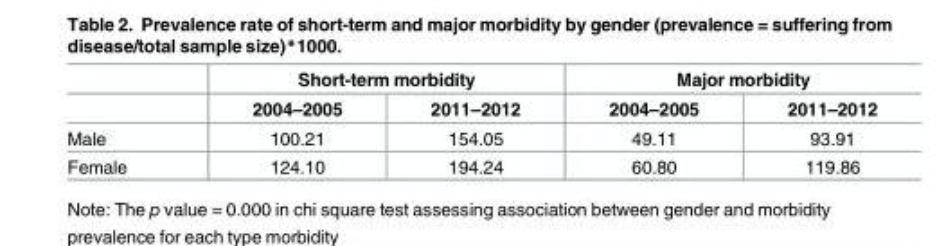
<table><thead><tr><td rowspan="2"></td><td colspan="2">Short-term morbidity</td><td colspan="2">Major morbidity</td></tr><tr><td>2004–2005</td><td>2011–2012</td><td>2004–2005</td><td>2011–2012</td></tr></thead><tbody><tr><td>Male</td><td>100.21</td><td>154.05</td><td>49.11</td><td>93.91</td></tr><tr><td>Female</td><td>124.10</td><td>194.24</td><td>60.80</td><td>119.86</td></tr></tbody></table>